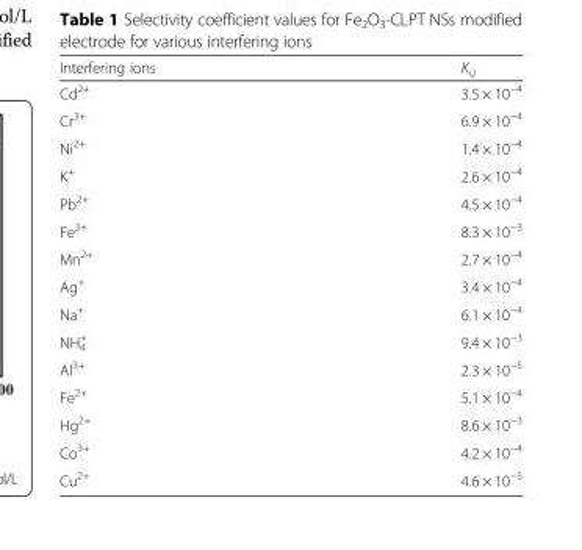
<table><thead><tr><td>Interfering ions</td><td>K<sub>i,j</sub></td></tr></thead><tbody><tr><td>Cd<sup>2+</sup></td><td>3.5 × 10<sup>−4</sup></td></tr><tr><td>Cr<sup>3+</sup></td><td>6.9 × 10<sup>−4</sup></td></tr><tr><td>Ni<sup>2+</sup></td><td>1.4 × 10<sup>−4</sup></td></tr><tr><td>K<sup>+</sup></td><td>2.6 × 10<sup>−4</sup></td></tr><tr><td>Pb<sup>2+</sup></td><td>4.5 × 10<sup>−4</sup></td></tr><tr><td>Fe<sup>3+</sup></td><td>8.3 × 10<sup>−3</sup></td></tr><tr><td>Mn<sup>2+</sup></td><td>2.7 × 10<sup>−4</sup></td></tr><tr><td>Ag<sup>+</sup></td><td>3.4 × 10<sup>−4</sup></td></tr><tr><td>Na<sup>+</sup></td><td>6.1 × 10<sup>−4</sup></td></tr><tr><td>NH<sub>4</sub> <sup>+</sup></td><td>9.4 × 10<sup>−3</sup></td></tr><tr><td>Al<sup>3+</sup></td><td>2.3 × 10<sup>−5</sup></td></tr><tr><td>Fe<sup>2+</sup></td><td>5.1 × 10<sup>−4</sup></td></tr><tr><td>Hg<sup>2+</sup></td><td>8.6 × 10<sup>−3</sup></td></tr><tr><td>Co<sup>3+</sup></td><td>4.2 × 10<sup>−4</sup></td></tr><tr><td>Cu<sup>2+</sup></td><td>4.6 × 10<sup>−5</sup></td></tr></tbody></table>